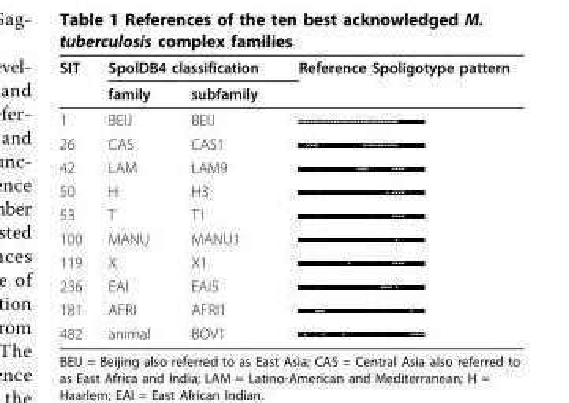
<table><thead><tr><td rowspan="2">SIT</td><td colspan="2">SpolDB4 classification</td><td rowspan="2">Reference Spoligotype pattern</td></tr><tr><td>family</td><td>subfamily</td></tr></thead><tbody><tr><td>1</td><td>BEIJ</td><td>BEIJ</td><td></td></tr><tr><td>26</td><td>CAS</td><td>CAS1</td><td></td></tr><tr><td>42</td><td>LAM</td><td>LAM9</td><td></td></tr><tr><td>50</td><td>H</td><td>H3</td><td></td></tr><tr><td>53</td><td>T</td><td>T1</td><td></td></tr><tr><td>100</td><td>MANU</td><td>MANU1</td><td></td></tr><tr><td>119</td><td>X</td><td>X1</td><td></td></tr><tr><td>236</td><td>EAI</td><td>EAI5</td><td></td></tr><tr><td>181</td><td>AFRI</td><td>AFRI1</td><td></td></tr><tr><td>482</td><td>animal</td><td>BOV1</td><td></td></tr></tbody></table>